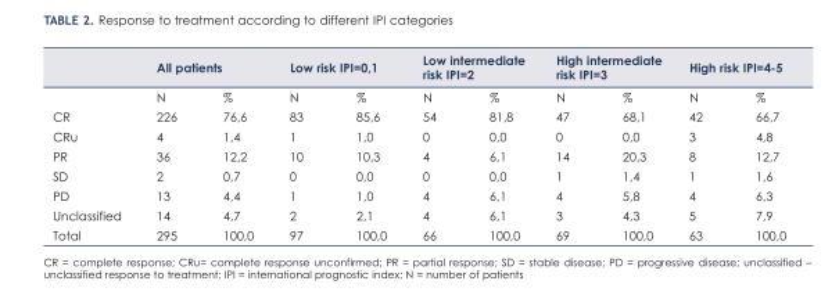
<table><thead><tr><td rowspan="2"></td><td colspan="2">All patients</td><td colspan="2">Low risk IPI=0,1</td><td colspan="2">Low intermediate risk IPI=2</td><td colspan="2">High intermediate risk IPI=3</td><td colspan="2">High risk IPI=4-5</td></tr><tr><td>N</td><td>%</td><td>N</td><td>%</td><td>N</td><td>%</td><td>N</td><td>%</td><td>N</td><td>%</td></tr></thead><tbody><tr><td>CR</td><td>226</td><td>76,6</td><td>83</td><td>85,6</td><td>54</td><td>81,8</td><td>47</td><td>68,1</td><td>42</td><td>66,7</td></tr><tr><td>CRu</td><td>4</td><td>1,4</td><td>1</td><td>1,0</td><td>0</td><td>0,0</td><td>0</td><td>0,0</td><td>3</td><td>4,8</td></tr><tr><td>PR</td><td>36</td><td>12,2</td><td>10</td><td>10,3</td><td>4</td><td>6,1</td><td>14</td><td>20,3</td><td>8</td><td>12,7</td></tr><tr><td>SD</td><td>2</td><td>0,7</td><td>0</td><td>0,0</td><td>0</td><td>0,0</td><td>1</td><td>1,4</td><td>1</td><td>1,6</td></tr><tr><td>PD</td><td>13</td><td>4,4</td><td>1</td><td>1,0</td><td>4</td><td>6,1</td><td>4</td><td>5,8</td><td>4</td><td>6,3</td></tr><tr><td>Unclassified</td><td>14</td><td>4,7</td><td>2</td><td>2,1</td><td>4</td><td>6,1</td><td>3</td><td>4,3</td><td>5</td><td>7,9</td></tr><tr><td>Total</td><td>295</td><td>100,0</td><td>97</td><td>100,0</td><td>66</td><td>100,0</td><td>69</td><td>100,0</td><td>63</td><td>100,0</td></tr></tbody></table>